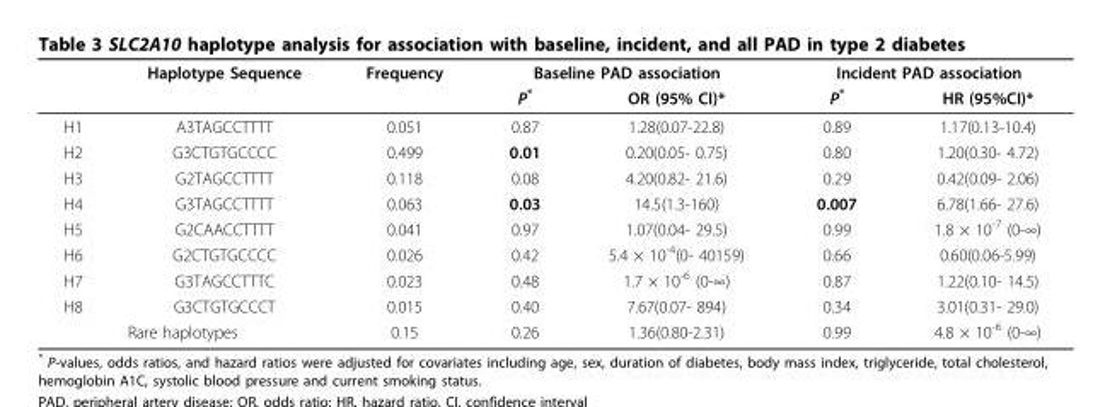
<table><thead><tr><td rowspan="2"></td><td rowspan="2">Haplotype Sequence</td><td rowspan="2">Frequency</td><td colspan="2">Baseline PAD association</td><td colspan="2">Incident PAD association</td></tr><tr><td>P*</td><td>OR (95% CI)*</td><td>P*</td><td>HR (95%CI)*</td></tr></thead><tbody><tr><td>H1</td><td>A3TAGCCTTTT</td><td>0.051</td><td>0.87</td><td>1.28(0.07-22.8)</td><td>0.89</td><td>1.17(0.13-10.4)</td></tr><tr><td>H2</td><td>G3CTGTGCCCC</td><td>0.499</td><td>0.01</td><td>0.20(0.05- 0.75)</td><td>0.80</td><td>1.20(0.30- 4.72)</td></tr><tr><td>H3</td><td>G2TAGCCTTTT</td><td>0.118</td><td>0.08</td><td>4.20(0.82- 21.6)</td><td>0.29</td><td>0.42(0.09- 2.06)</td></tr><tr><td>H4</td><td>G3TAGCCTTTT</td><td>0.063</td><td>0.03</td><td>14.5(1.3-160)</td><td>0.007</td><td>6.78(1.66- 27.6)</td></tr><tr><td>H5</td><td>G2CAACCTTTT</td><td>0.041</td><td>0.97</td><td>1.07(0.04- 29.5)</td><td>0.99</td><td>1.8 × 10<sup>-7</sup> (0-∞)</td></tr><tr><td>H6</td><td>G2CTGTGCCCC</td><td>0.026</td><td>0.42</td><td>5.4 × 10<sup>-4</sup>(0- 40159)</td><td>0.66</td><td>0.60(0.06-5.99)</td></tr><tr><td>H7</td><td>G3TAGCCTTTC</td><td>0.023</td><td>0.48</td><td>1.7 × 10<sup>-6</sup> (0-∞)</td><td>0.87</td><td>1.22(0.10- 14.5)</td></tr><tr><td>H8</td><td>G3CTGTGCCCT</td><td>0.015</td><td>0.40</td><td>7.67(0.07- 894)</td><td>0.34</td><td>3.01(0.31- 29.0)</td></tr><tr><td colspan="2">Rare haplotypes</td><td>0.15</td><td>0.26</td><td>1.36(0.80-2.31)</td><td>0.99</td><td>4.8 × 10<sup>-6</sup> (0-∞)</td></tr></tbody></table>